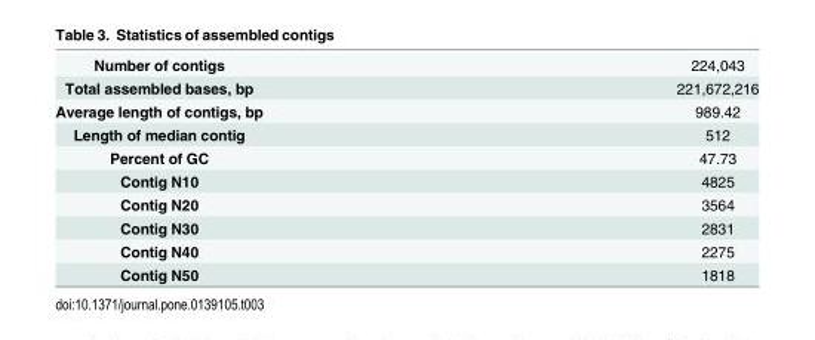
<table><tbody><tr><td>Number of contigs</td><td>224,043</td></tr><tr><td>Total assembled bases, bp</td><td>221,672,216</td></tr><tr><td>Average length of contigs, bp</td><td>989.42</td></tr><tr><td>Length of median contig</td><td>512</td></tr><tr><td>Percent of GC</td><td>47.73</td></tr><tr><td>Contig N10</td><td>4825</td></tr><tr><td>Contig N20</td><td>3564</td></tr><tr><td>Contig N30</td><td>2831</td></tr><tr><td>Contig N40</td><td>2275</td></tr><tr><td>Contig N50</td><td>1818</td></tr></tbody></table>